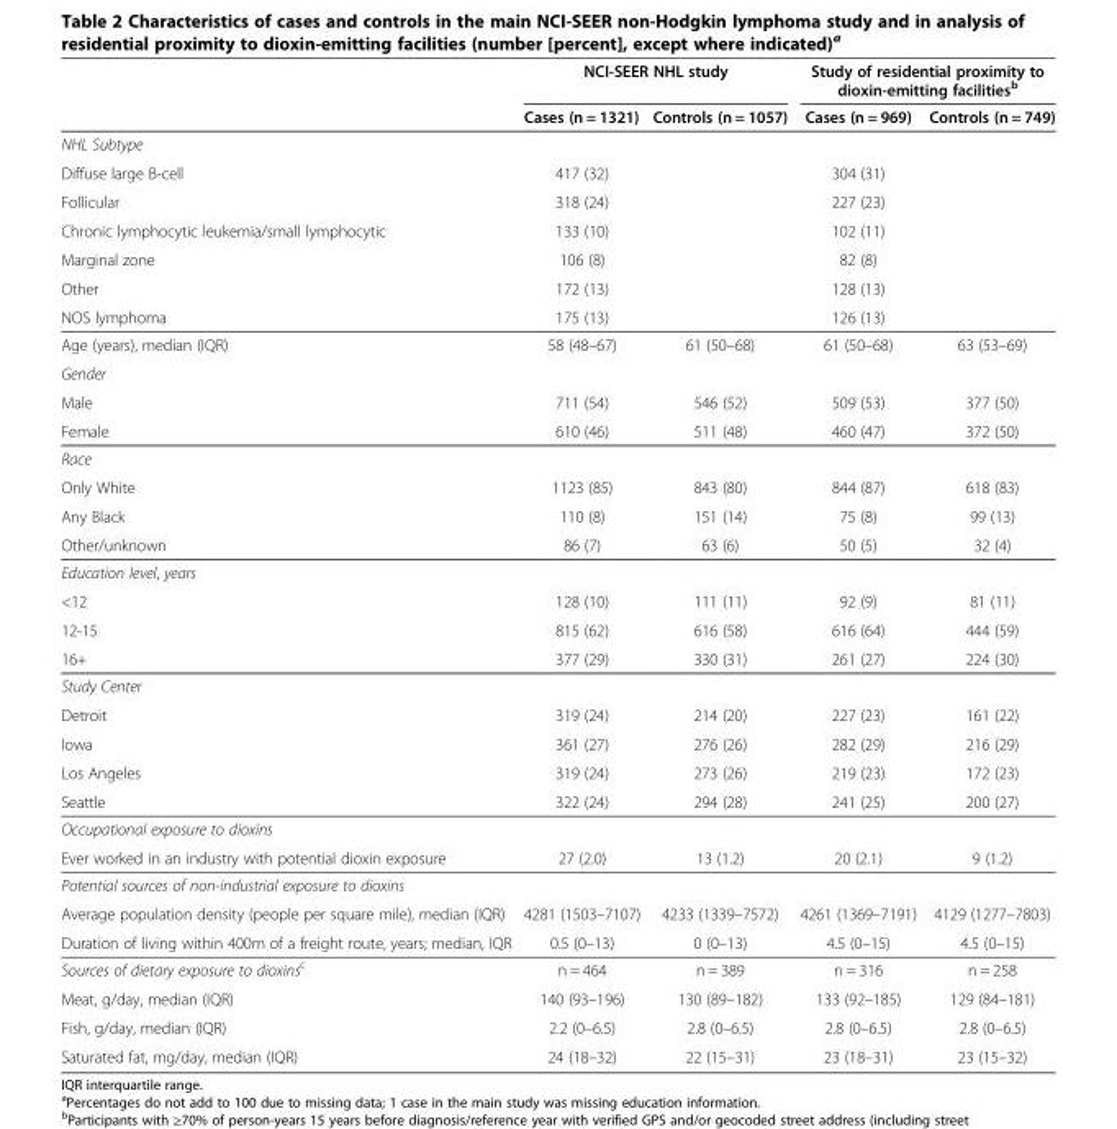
<table><thead><tr><td rowspan="2"></td><td colspan="2">NCI-SEER NHL study</td><td colspan="2">Study of residential proximity to dioxin-emitting facilities<sup>b</sup></td></tr><tr><td>Cases (n = 1321)</td><td>Controls (n = 1057)</td><td>Cases (n = 969)</td><td>Controls (n = 749)</td></tr></thead><tbody><tr><td colspan="5">NHL Subtype</td></tr><tr><td>Diffuse large B-cell</td><td>417 (32)</td><td></td><td>304 (31)</td><td></td></tr><tr><td>Follicular</td><td>318 (24)</td><td></td><td>227 (23)</td><td></td></tr><tr><td>Chronic lymphocytic leukemia/small lymphocytic</td><td>133 (10)</td><td></td><td>102 (11)</td><td></td></tr><tr><td>Marginal zone</td><td>106 (8)</td><td></td><td>82 (8)</td><td></td></tr><tr><td>Other</td><td>172 (13)</td><td></td><td>128 (13)</td><td></td></tr><tr><td>NOS lymphoma</td><td>175 (13)</td><td></td><td>126 (13)</td><td></td></tr><tr><td>Age (years), median (IQR)</td><td>58 (48–67)</td><td>61 (50–68)</td><td>61 (50–68)</td><td>63 (53–69)</td></tr><tr><td colspan="5">Gender</td></tr><tr><td>Male</td><td>711 (54)</td><td>546 (52)</td><td>509 (53)</td><td>377 (50)</td></tr><tr><td>Female</td><td>610 (46)</td><td>511 (48)</td><td>460 (47)</td><td>372 (50)</td></tr><tr><td colspan="5">Race</td></tr><tr><td>Only White</td><td>1123 (85)</td><td>843 (80)</td><td>844 (87)</td><td>618 (83)</td></tr><tr><td>Any Black</td><td>110 (8)</td><td>151 (14)</td><td>75 (8)</td><td>99 (13)</td></tr><tr><td>Other/unknown</td><td>86 (7)</td><td>63 (6)</td><td>50 (5)</td><td>32 (4)</td></tr><tr><td colspan="5">Education level, years</td></tr><tr><td>&lt;12</td><td>128 (10)</td><td>111 (11)</td><td>92 (9)</td><td>81 (11)</td></tr><tr><td>12-15</td><td>815 (62)</td><td>616 (58)</td><td>616 (64)</td><td>444 (59)</td></tr><tr><td>16+</td><td>377 (29)</td><td>330 (31)</td><td>261 (27)</td><td>224 (30)</td></tr><tr><td colspan="5">Study Center</td></tr><tr><td>Detroit</td><td>319 (24)</td><td>214 (20)</td><td>227 (23)</td><td>161 (22)</td></tr><tr><td>Iowa</td><td>361 (27)</td><td>276 (26)</td><td>282 (29)</td><td>216 (29)</td></tr><tr><td>Los Angeles</td><td>319 (24)</td><td>273 (26)</td><td>219 (23)</td><td>172 (23)</td></tr><tr><td>Seattle</td><td>322 (24)</td><td>294 (28)</td><td>241 (25)</td><td>200 (27)</td></tr><tr><td colspan="5">Occupational exposure to dioxins</td></tr><tr><td>Ever worked in an industry with potential dioxin exposure</td><td>27 (2.0)</td><td>13 (1.2)</td><td>20 (2.1)</td><td>9 (1.2)</td></tr><tr><td colspan="5">Potential sources of non-industrial exposure to dioxins</td></tr><tr><td>Average population density (people per square mile), median (IQR)</td><td>4281 (1503–7107)</td><td>4233 (1339–7572)</td><td>4261 (1369–7191)</td><td>4129 (1277–7803)</td></tr><tr><td>Duration of living within 400m of a freight route, years; median, IQR</td><td>0.5 (0–13)</td><td>0 (0–13)</td><td>4.5 (0–15)</td><td>4.5 (0–15)</td></tr><tr><td>Sources of dietary exposure to dioxins<sup>c</sup></td><td>n = 464</td><td>n = 389</td><td>n = 316</td><td>n = 258</td></tr><tr><td>Meat, g/day, median (IQR)</td><td>140 (93–196)</td><td>130 (89–182)</td><td>133 (92–185)</td><td>129 (84–181)</td></tr><tr><td>Fish, g/day, median (IQR)</td><td>2.2 (0–6.5)</td><td>2.8 (0–6.5)</td><td>2.8 (0–6.5)</td><td>2.8 (0–6.5)</td></tr><tr><td>Saturated fat, mg/day, median (IQR)</td><td>24 (18–32)</td><td>22 (15–31)</td><td>23 (18–31)</td><td>23 (15–32)</td></tr></tbody></table>